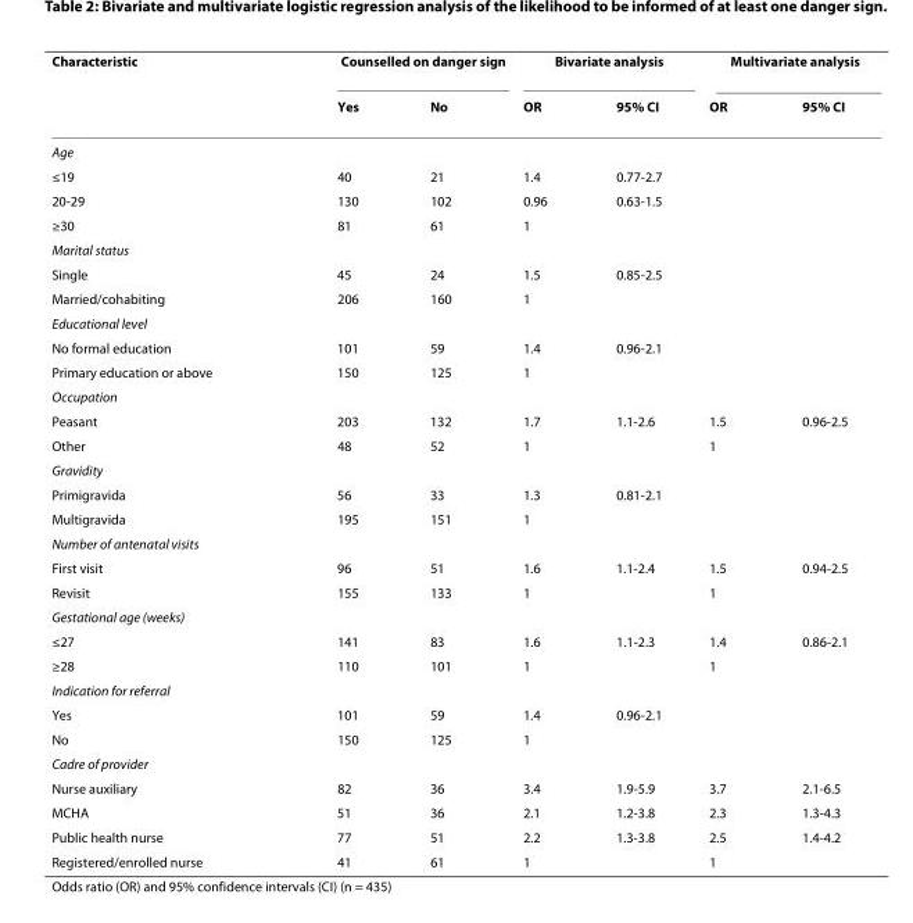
<table><thead><tr><td rowspan="2">Characteristic</td><td colspan="2">Counselled on danger sign</td><td colspan="2">Bivariate analysis</td><td colspan="2">Multivariate analysis</td></tr><tr><td>Yes</td><td>No</td><td>OR</td><td>95% CI</td><td>OR</td><td>95% CI</td></tr></thead><tbody><tr><td colspan="7">Age</td></tr><tr><td>≤19</td><td>40</td><td>21</td><td>1.4</td><td>0.77-2.7</td><td></td><td></td></tr><tr><td>20-29</td><td>130</td><td>102</td><td>0.96</td><td>0.63-1.5</td><td></td><td></td></tr><tr><td>≥30</td><td>81</td><td>61</td><td>1</td><td></td><td></td><td></td></tr><tr><td colspan="7">Marital status</td></tr><tr><td>Single</td><td>45</td><td>24</td><td>1.5</td><td>0.85-2.5</td><td></td><td></td></tr><tr><td>Married/cohabiting</td><td>206</td><td>160</td><td>1</td><td></td><td></td><td></td></tr><tr><td colspan="7">Educational level</td></tr><tr><td>No formal education</td><td>101</td><td>59</td><td>1.4</td><td>0.96-2.1</td><td></td><td></td></tr><tr><td>Primary education or above</td><td>150</td><td>125</td><td>1</td><td></td><td></td><td></td></tr><tr><td colspan="7">Occupation</td></tr><tr><td>Peasant</td><td>203</td><td>132</td><td>1.7</td><td>1.1-2.6</td><td>1.5</td><td>0.96-2.5</td></tr><tr><td>Other</td><td>48</td><td>52</td><td>1</td><td></td><td>1</td><td></td></tr><tr><td colspan="7">Gravidity</td></tr><tr><td>Primigravida</td><td>56</td><td>33</td><td>1.3</td><td>0.81-2.1</td><td></td><td></td></tr><tr><td>Multigravida</td><td>195</td><td>151</td><td>1</td><td></td><td></td><td></td></tr><tr><td colspan="7">Number of antenatal visits</td></tr><tr><td>First visit</td><td>96</td><td>51</td><td>1.6</td><td>1.1-2.4</td><td>1.5</td><td>0.94-2.5</td></tr><tr><td>Revisit</td><td>155</td><td>133</td><td>1</td><td></td><td>1</td><td></td></tr><tr><td colspan="7">Gestational age (weeks)</td></tr><tr><td>≤27</td><td>141</td><td>83</td><td>1.6</td><td>1.1-2.3</td><td>1.4</td><td>0.86-2.1</td></tr><tr><td>≥28</td><td>110</td><td>101</td><td>1</td><td></td><td>1</td><td></td></tr><tr><td colspan="7">Indication for referral</td></tr><tr><td>Yes</td><td>101</td><td>59</td><td>1.4</td><td>0.96-2.1</td><td></td><td></td></tr><tr><td>No</td><td>150</td><td>125</td><td>1</td><td></td><td></td><td></td></tr><tr><td colspan="7">Cadre of provider</td></tr><tr><td>Nurse auxiliary</td><td>82</td><td>36</td><td>3.4</td><td>1.9-5.9</td><td>3.7</td><td>2.1-6.5</td></tr><tr><td>MCHA</td><td>51</td><td>36</td><td>2.1</td><td>1.2-3.8</td><td>2.3</td><td>1.3-4.3</td></tr><tr><td>Public health nurse</td><td>77</td><td>51</td><td>2.2</td><td>1.3-3.8</td><td>2.5</td><td>1.4-4.2</td></tr><tr><td>Registered/enrolled nurse</td><td>41</td><td>61</td><td>1</td><td></td><td>1</td><td></td></tr></tbody></table>